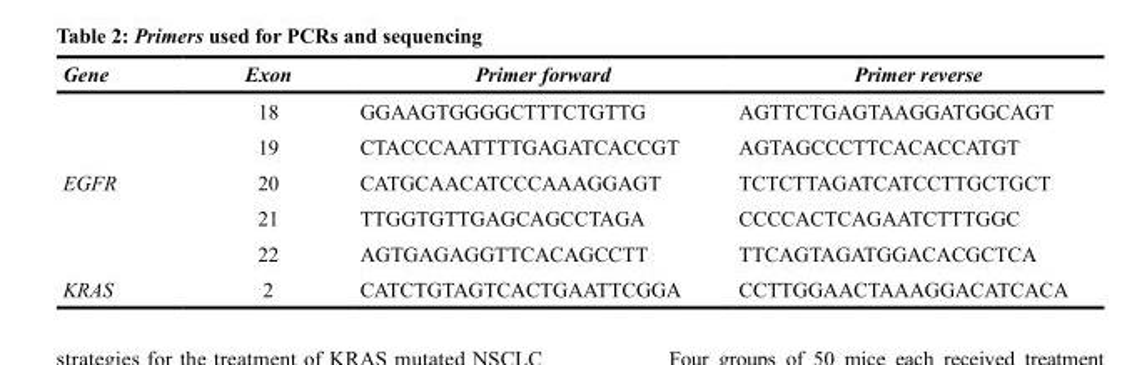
<table><thead><tr><td>Gene</td><td>Exon</td><td>Primer forward</td><td>Primer reverse</td></tr></thead><tbody><tr><td></td><td>18</td><td>GGAAGTGGGGCTTTCTGTTG</td><td>AGTTCTGAGTAAGGATGGCAGT</td></tr><tr><td></td><td>19</td><td>CTACCCAATTTTGAGATCACCGT</td><td>AGTAGCCCTTCACACCATGT</td></tr><tr><td rowspan="3">EGFR</td><td>20</td><td>CATGCAACATCCCAAAGGAGT</td><td>TCTCTTAGATCATCCTTGCTGCT</td></tr><tr><td>21</td><td>TTGGTGTTGAGCAGCCTAGA</td><td>CCCCACTCAGAATCTTTGGC</td></tr><tr><td>22</td><td>AGTGAGAGGTTCACAGCCTT</td><td>TTCAGTAGATGGACACGCTCA</td></tr><tr><td>KRAS</td><td>2</td><td>CATCTGTAGTCACTGAATTCGGA</td><td>CCTTGGAACTAAAGGACATCACA</td></tr></tbody></table>